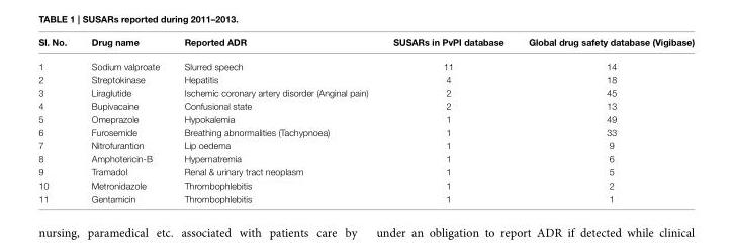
<table><thead><tr><td>Sl. No.</td><td>Drug name</td><td>Reported ADR</td><td>SUSARs in PvPI database</td><td>Global drug safety database (Vigibase)</td></tr></thead><tbody><tr><td>1</td><td>Sodium valproate</td><td>Slurred speech</td><td>11</td><td>14</td></tr><tr><td>2</td><td>Streptokinase</td><td>Hepatitis</td><td>4</td><td>18</td></tr><tr><td>3</td><td>Liraglutide</td><td>Ischemic coronary artery disorder (Anginal pain)</td><td>2</td><td>45</td></tr><tr><td>4</td><td>Bupivacaine</td><td>Confusional state</td><td>2</td><td>13</td></tr><tr><td>5</td><td>Omeprazole</td><td>Hypokalemia</td><td>1</td><td>49</td></tr><tr><td>6</td><td>Furosemide</td><td>Breathing abnormalities (Tachypnoea)</td><td>1</td><td>33</td></tr><tr><td>7</td><td>Nitrofurantion</td><td>Lip oedema</td><td>1</td><td>9</td></tr><tr><td>8</td><td>Amphotericin-B</td><td>Hypernatremia</td><td>1</td><td>6</td></tr><tr><td>9</td><td>Tramadol</td><td>Renal &amp; urinary tract neoplasm</td><td>1</td><td>5</td></tr><tr><td>10</td><td>Metronidazole</td><td>Thrombophlebitis</td><td>1</td><td>2</td></tr><tr><td>11</td><td>Gentamicin</td><td>Thrombophlebitis</td><td>1</td><td>1</td></tr></tbody></table>